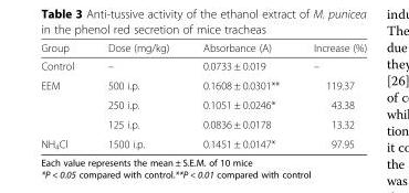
<table><thead><tr><td>Group</td><td>Dose (mg/kg)</td><td>Absorbance (A)</td><td>Increase (%)</td></tr></thead><tbody><tr><td>Control</td><td>–</td><td>0.0733 ± 0.019</td><td>–</td></tr><tr><td rowspan="3">EEM</td><td>500 i.p.</td><td>0.1608 ± 0.0301**</td><td>119.37</td></tr><tr><td>250 i.p.</td><td>0.1051 ± 0.0246*</td><td>43.38</td></tr><tr><td>125 i.p.</td><td>0.0836 ± 0.0178</td><td>13.32</td></tr><tr><td>NH<sub>4</sub>Cl</td><td>1500 i.p.</td><td>0.1451 ± 0.0147*</td><td>97.95</td></tr></tbody></table>